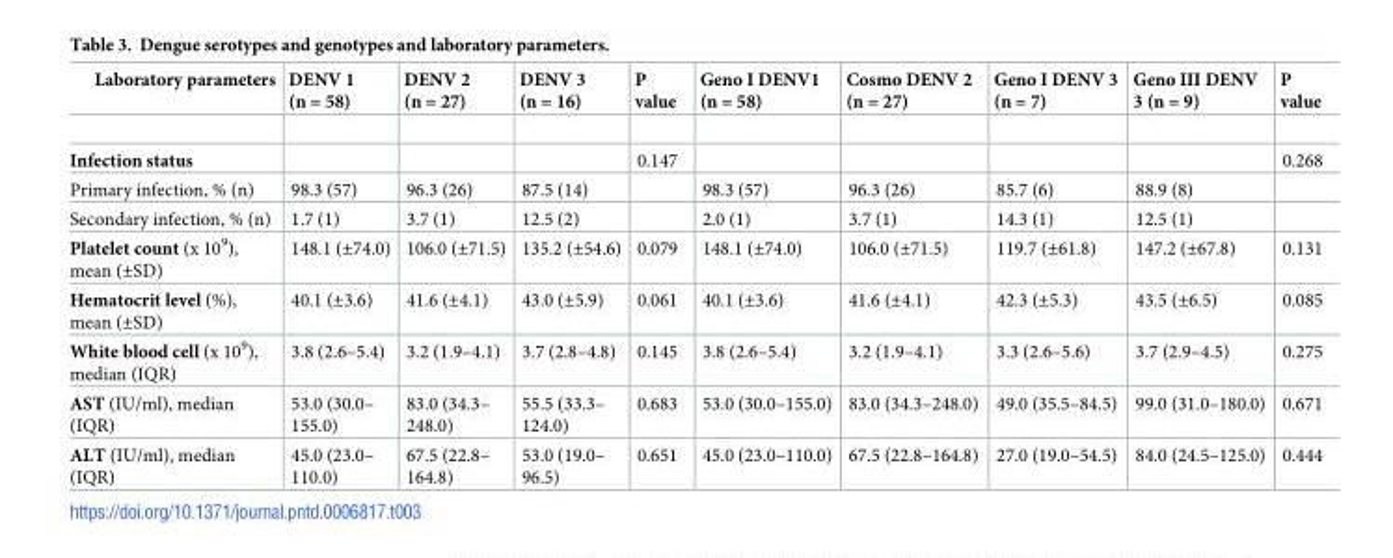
<table><thead><tr><td>Laboratory parameters</td><td>DENV 1 (n = 58)</td><td>DENV 2 (n = 27)</td><td>DENV 3 (n = 16)</td><td>P value</td><td>Geno I DENV1 (n = 58)</td><td>Cosmo DENV 2 (n = 27)</td><td>Geno I DENV 3 (n = 7)</td><td>Geno III DENV 3 (n = 9)</td><td>P value</td></tr></thead><tbody><tr><td>Infection status</td><td></td><td></td><td></td><td>0.147</td><td></td><td></td><td></td><td></td><td>0.268</td></tr><tr><td>Primary infection, % (n)</td><td>98.3 (57)</td><td>96.3 (26)</td><td>87.5 (14)</td><td></td><td>98.3 (57)</td><td>96.3 (26)</td><td>85.7 (6)</td><td>88.9 (8)</td><td></td></tr><tr><td>Secondary infection, % (n)</td><td>1.7 (1)</td><td>3.7 (1)</td><td>12.5 (2)</td><td></td><td>2.0 (1)</td><td>3.7 (1)</td><td>14.3 (1)</td><td>12.5 (1)</td><td></td></tr><tr><td>Platelet count (x 10<sup>9</sup>), mean (±SD)</td><td>148.1 (±74.0)</td><td>106.0 (±71.5)</td><td>135.2 (±54.6)</td><td>0.079</td><td>148.1 (±74.0)</td><td>106.0 (±71.5)</td><td>119.7 (±61.8)</td><td>147.2 (±67.8)</td><td>0.131</td></tr><tr><td>Hematocrit level (%), mean (±SD)</td><td>40.1 (±3.6)</td><td>41.6 (±4.1)</td><td>43.0 (±5.9)</td><td>0.061</td><td>40.1 (±3.6)</td><td>41.6 (±4.1)</td><td>42.3 (±5.3)</td><td>43.5 (±6.5)</td><td>0.085</td></tr><tr><td>White blood cell (x 10<sup>9</sup>), median (IQR)</td><td>3.8 (2.6–5.4)</td><td>3.2 (1.9–4.1)</td><td>3.7 (2.8–4.8)</td><td>0.145</td><td>3.8 (2.6–5.4)</td><td>3.2 (1.9–4.1)</td><td>3.3 (2.6–5.6)</td><td>3.7 (2.9–4.5)</td><td>0.275</td></tr><tr><td>AST (IU/ml), median (IQR)</td><td>53.0 (30.0– 155.0)</td><td>83.0 (34.3– 248.0)</td><td>55.5 (33.3– 124.0)</td><td>0.683</td><td>53.0 (30.0–155.0)</td><td>83.0 (34.3–248.0)</td><td>49.0 (35.5–84.5)</td><td>99.0 (31.0–180.0)</td><td>0.671</td></tr><tr><td>ALT (IU/ml), median (IQR)</td><td>45.0 (23.0– 110.0)</td><td>67.5 (22.8– 164.8)</td><td>53.0 (19.0– 96.5)</td><td>0.651</td><td>45.0 (23.0–110.0)</td><td>67.5 (22.8–164.8)</td><td>27.0 (19.0–54.5)</td><td>84.0 (24.5–125.0)</td><td>0.444</td></tr></tbody></table>